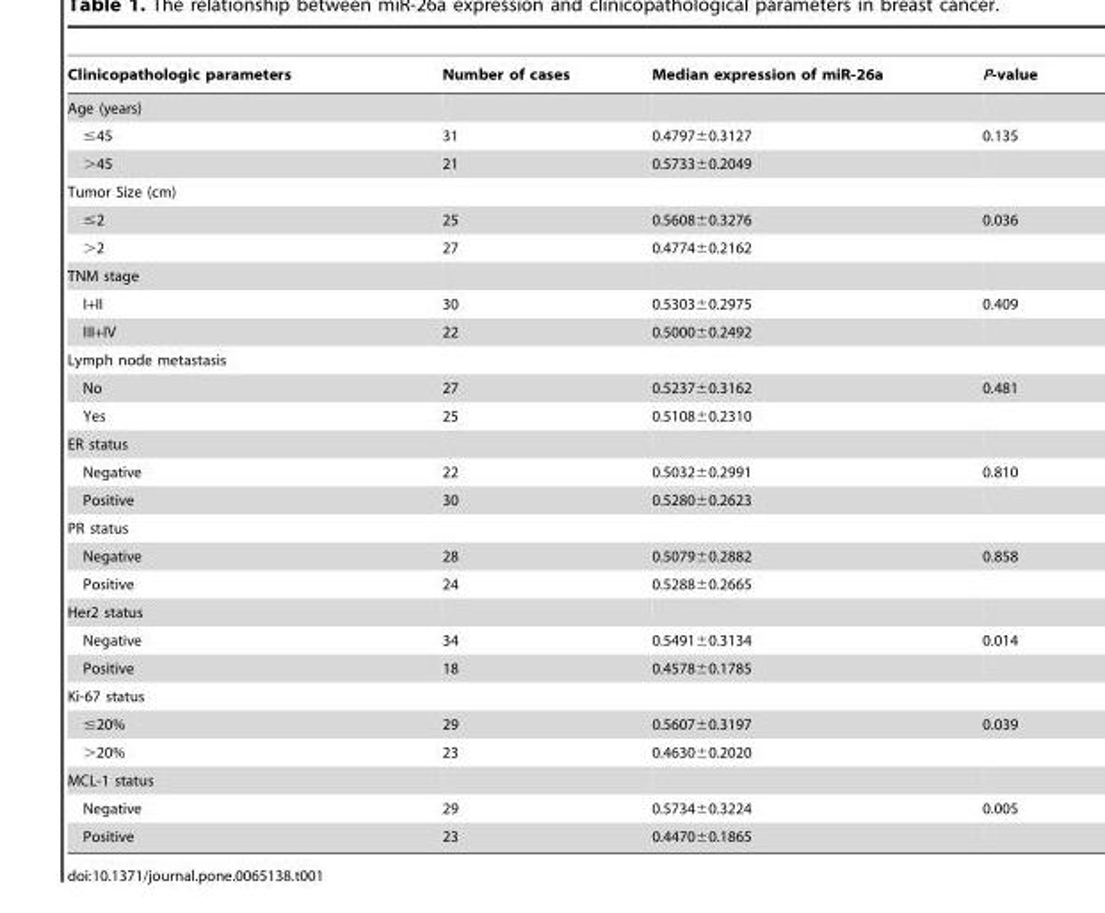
<table><thead><tr><td>Clinicopathologic parameters</td><td>Number of cases</td><td>Median expression of miR-26a</td><td>P-value</td></tr></thead><tbody><tr><td colspan="4">Age (years)</td></tr><tr><td>≤45</td><td>31</td><td>0.4797±0.3127</td><td>0.135</td></tr><tr><td>&gt;45</td><td>21</td><td>0.5733±0.2049</td><td></td></tr><tr><td colspan="4">Tumor Size (cm)</td></tr><tr><td>≤2</td><td>25</td><td>0.5608±0.3276</td><td>0.036</td></tr><tr><td>&gt;2</td><td>27</td><td>0.4774±0.2162</td><td></td></tr><tr><td colspan="4">TNM stage</td></tr><tr><td>I+II</td><td>30</td><td>0.5303±0.2975</td><td>0.409</td></tr><tr><td>III+IV</td><td>22</td><td>0.5000±0.2492</td><td></td></tr><tr><td colspan="4">Lymph node metastasis</td></tr><tr><td>No</td><td>27</td><td>0.5237±0.3162</td><td>0.481</td></tr><tr><td>Yes</td><td>25</td><td>0.5108±0.2310</td><td></td></tr><tr><td colspan="4">ER status</td></tr><tr><td>Negative</td><td>22</td><td>0.5032±0.2991</td><td>0.810</td></tr><tr><td>Positive</td><td>30</td><td>0.5280±0.2623</td><td></td></tr><tr><td colspan="4">PR status</td></tr><tr><td>Negative</td><td>28</td><td>0.5079±0.2882</td><td>0.858</td></tr><tr><td>Positive</td><td>24</td><td>0.5288±0.2665</td><td></td></tr><tr><td colspan="4">Her2 status</td></tr><tr><td>Negative</td><td>34</td><td>0.5491±0.3134</td><td>0.014</td></tr><tr><td>Positive</td><td>18</td><td>0.4578±0.1785</td><td></td></tr><tr><td colspan="4">Ki-67 status</td></tr><tr><td>≤20%</td><td>29</td><td>0.5607±0.3197</td><td>0.039</td></tr><tr><td>&gt;20%</td><td>23</td><td>0.4630±0.2020</td><td></td></tr><tr><td colspan="4">MCL-1 status</td></tr><tr><td>Negative</td><td>29</td><td>0.5734±0.3224</td><td>0.005</td></tr><tr><td>Positive</td><td>23</td><td>0.4470±0.1865</td><td></td></tr></tbody></table>